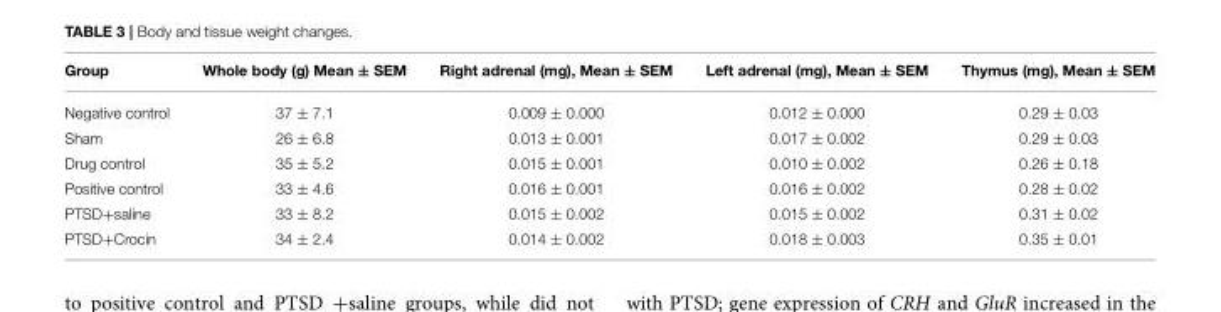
<table><thead><tr><td>Group</td><td>Whole body (g) Mean ± SEM</td><td>Right adrenal (mg), Mean ± SEM</td><td>Left adrenal (mg), Mean ± SEM</td><td>Thymus (mg), Mean ± SEM</td></tr></thead><tbody><tr><td>Negative control</td><td>37 ± 7.1</td><td>0.009 ± 0.000</td><td>0.012 ± 0.000</td><td>0.29 ± 0.03</td></tr><tr><td>Sham</td><td>26 ± 6.8</td><td>0.013 ± 0.001</td><td>0.017 ± 0.002</td><td>0.29 ± 0.03</td></tr><tr><td>Drug control</td><td>35 ± 5.2</td><td>0.015 ± 0.001</td><td>0.010 ± 0.002</td><td>0.26 ± 0.18</td></tr><tr><td>Positive control</td><td>33 ± 4.6</td><td>0.016 ± 0.001</td><td>0.016 ± 0.002</td><td>0.28 ± 0.02</td></tr><tr><td>PTSD+saline</td><td>33 ± 8.2</td><td>0.015 ± 0.002</td><td>0.015 ± 0.002</td><td>0.31 ± 0.02</td></tr><tr><td>PTSD+Crocin</td><td>34 ± 2.4</td><td>0.014 ± 0.002</td><td>0.018 ± 0.003</td><td>0.35 ± 0.01</td></tr></tbody></table>